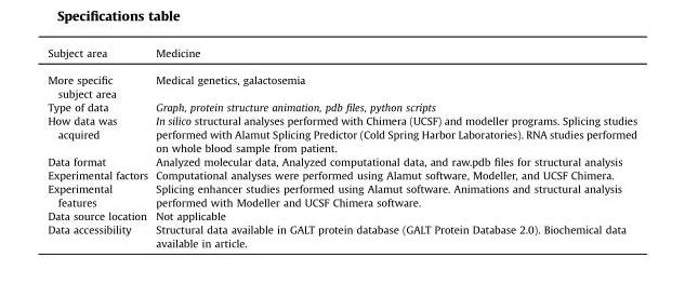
<table><tbody><tr><td>Subject area</td><td>Medicine</td></tr><tr><td>More specific subject area</td><td>Medical genetics, galactosemia</td></tr><tr><td>Type of data</td><td>Graph, protein structure animation, pdb files, python scripts</td></tr><tr><td>How data was acquired</td><td>In silico structural analyses performed with Chimera (UCSF) and modeller programs. Splicing studies performed with Alamut Splicing Predictor (Cold Spring Harbor Laboratories). RNA studies performed on whole blood sample from patient.</td></tr><tr><td>Data format</td><td>Analyzed molecular data, Analyzed computational data, and raw.pdb files for structural analysis</td></tr><tr><td>Experimental factors</td><td>Computational analyses were performed using Alamut software, Modeller, and UCSF Chimera.</td></tr><tr><td>Experimental features</td><td>Splicing enhancer studies performed using Alamut software. Animations and structural analysis performed with Modeller and UCSF Chimera software.</td></tr><tr><td>Data source location</td><td>Not applicable</td></tr><tr><td>Data accessibility</td><td>Structural data available in GALT protein database (GALT Protein Database 2.0). Biochemical data available in article.</td></tr></tbody></table>